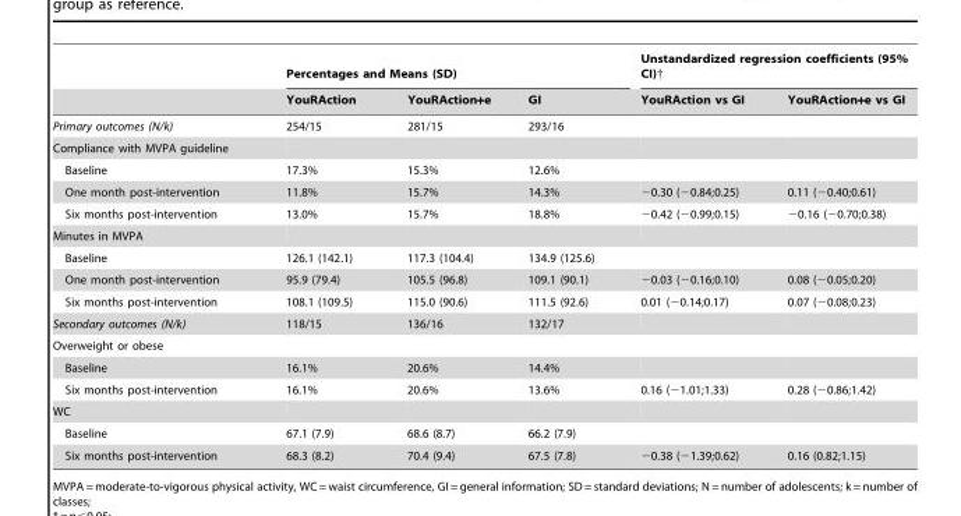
<table><thead><tr><td rowspan="2"></td><td colspan="3">Percentages and Means (SD)</td><td colspan="2">Unstandardized regression coefficients (95% CI)†</td></tr><tr><td>YouRAction</td><td>YouRAction+e</td><td>GI</td><td>YouRAction vs GI</td><td>YouRAction+e vs GI</td></tr></thead><tbody><tr><td>Primary outcomes (N/k)</td><td>254/15</td><td>281/15</td><td>293/16</td><td></td><td></td></tr><tr><td colspan="6">Compliance with MVPA guideline</td></tr><tr><td>Baseline</td><td>17.3%</td><td>15.3%</td><td>12.6%</td><td></td><td></td></tr><tr><td>One month post-intervention</td><td>11.8%</td><td>15.7%</td><td>14.3%</td><td>−0.30 (−0.84;0.25)</td><td>0.11 (−0.40;0.61)</td></tr><tr><td>Six months post-intervention</td><td>13.0%</td><td>15.7%</td><td>18.8%</td><td>−0.42 (−0.99;0.15)</td><td>−0.16 (−0.70;0.38)</td></tr><tr><td colspan="6">Minutes in MVPA</td></tr><tr><td>Baseline</td><td>126.1 (142.1)</td><td>117.3 (104.4)</td><td>134.9 (125.6)</td><td></td><td></td></tr><tr><td>One month post-intervention</td><td>95.9 (79.4)</td><td>105.5 (96.8)</td><td>109.1 (90.1)</td><td>−0.03 (−0.16;0.10)</td><td>0.08 (−0.05;0.20)</td></tr><tr><td>Six months post-intervention</td><td>108.1 (109.5)</td><td>115.0 (90.6)</td><td>111.5 (92.6)</td><td>0.01 (−0.14;0.17)</td><td>0.07 (−0.08;0.23)</td></tr><tr><td>Secondary outcomes (N/k)</td><td>118/15</td><td>136/16</td><td>132/17</td><td></td><td></td></tr><tr><td colspan="6">Overweight or obese</td></tr><tr><td>Baseline</td><td>16.1%</td><td>20.6%</td><td>14.4%</td><td></td><td></td></tr><tr><td>Six months post-intervention</td><td>16.1%</td><td>20.6%</td><td>13.6%</td><td>0.16 (−1.01;1.33)</td><td>0.28 (−0.86;1.42)</td></tr><tr><td colspan="6">WC</td></tr><tr><td>Baseline</td><td>67.1 (7.9)</td><td>68.6 (8.7)</td><td>66.2 (7.9)</td><td></td><td></td></tr><tr><td>Six months post-intervention</td><td>68.3 (8.2)</td><td>70.4 (9.4)</td><td>67.5 (7.8)</td><td>−0.38 (−1.39;0.62)</td><td>0.16 (0.82;1.15)</td></tr></tbody></table>